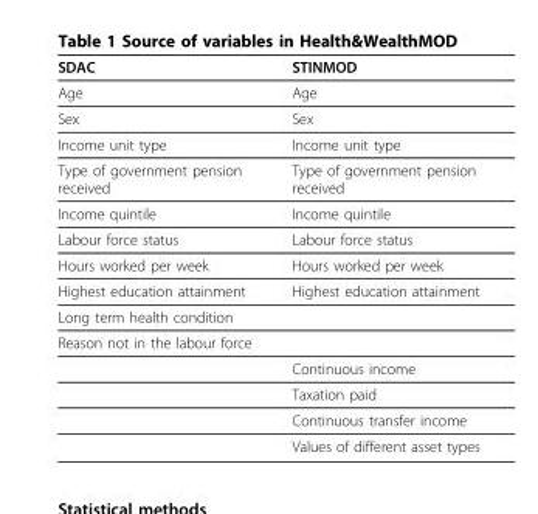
<table><thead><tr><td>SDAC</td><td>STINMOD</td></tr></thead><tbody><tr><td>Age</td><td>Age</td></tr><tr><td>Sex</td><td>Sex</td></tr><tr><td>Income unit type</td><td>Income unit type</td></tr><tr><td>Type of government pension received</td><td>Type of government pension received</td></tr><tr><td>Income quintile</td><td>Income quintile</td></tr><tr><td>Labour force status</td><td>Labour force status</td></tr><tr><td>Hours worked per week</td><td>Hours worked per week</td></tr><tr><td>Highest education attainment</td><td>Highest education attainment</td></tr><tr><td colspan="2">Long term health condition</td></tr><tr><td colspan="2">Reason not in the labour force</td></tr><tr><td></td><td>Continuous income</td></tr><tr><td></td><td>Taxation paid</td></tr><tr><td></td><td>Continuous transfer income</td></tr><tr><td></td><td>Values of different asset types</td></tr></tbody></table>